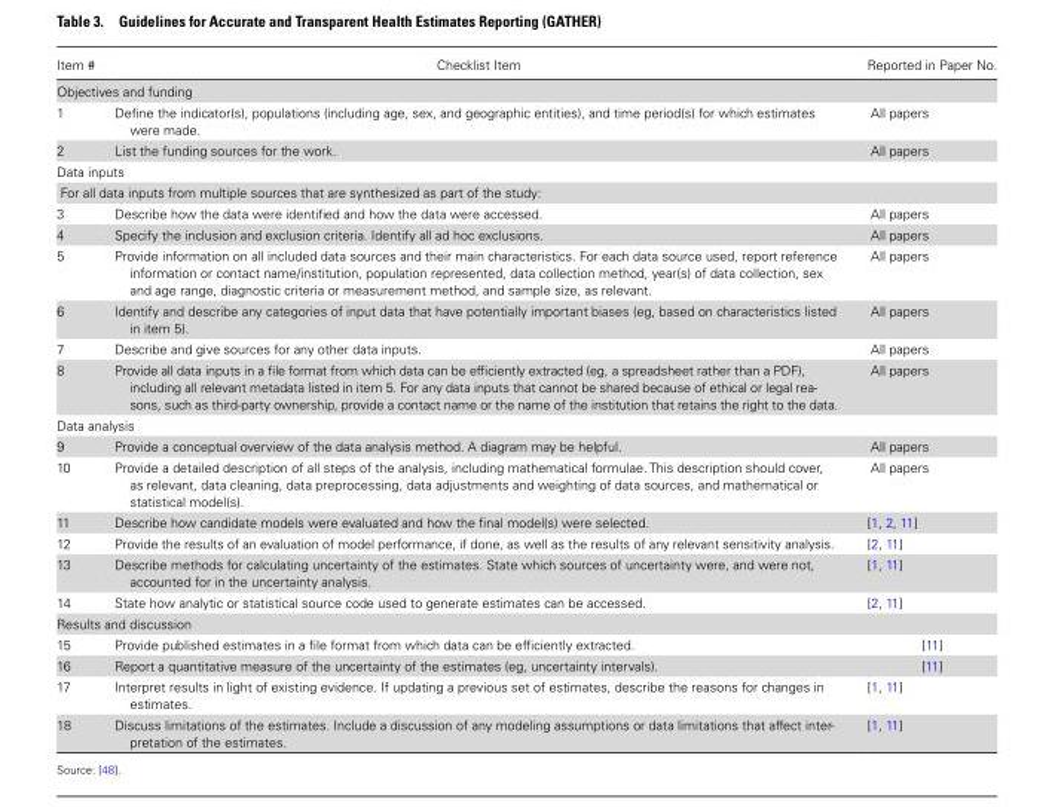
<table><thead><tr><td>Item #</td><td>Checklist Item</td><td>Reported in Paper No.</td></tr></thead><tbody><tr><td colspan="3">Objectives and funding</td></tr><tr><td>1</td><td>Define the indicator(s), populations (including age, sex, and geographic entities), and time period(s) for which estimates were made.</td><td>All papers</td></tr><tr><td>2</td><td>List the funding sources for the work.</td><td>All papers</td></tr><tr><td colspan="3">Data inputs</td></tr><tr><td colspan="3">For all data inputs from multiple sources that are synthesized as part of the study:</td></tr><tr><td>3</td><td>Describe how the data were identified and how the data were accessed.</td><td>All papers</td></tr><tr><td>4</td><td>Specify the inclusion and exclusion criteria. Identify all ad hoc exclusions.</td><td>All papers</td></tr><tr><td>5</td><td>Provide information on all included data sources and their main characteristics. For each data source used, report reference information or contact name/institution, population represented, data collection method, year(s) of data collection, sex and age range, diagnostic criteria or measurement method, and sample size, as relevant.</td><td>All papers</td></tr><tr><td>6</td><td>Identify and describe any categories of input data that have potentially important biases (eg, based on characteristics listed in item 5).</td><td>All papers</td></tr><tr><td>7</td><td>Describe and give sources for any other data inputs.</td><td>All papers</td></tr><tr><td>8</td><td>Provide all data inputs in a file format from which data can be efficiently extracted (eg, a spreadsheet rather than a PDF), including all relevant metadata listed in item 5. For any data inputs that cannot be shared because of ethical or legal rea- sons, such as third-party ownership, provide a contact name or the name of the institution that retains the right to the data.</td><td>All papers</td></tr><tr><td colspan="3">Data analysis</td></tr><tr><td>9</td><td>Provide a conceptual overview of the data analysis method. A diagram may be helpful.</td><td>All papers</td></tr><tr><td>10</td><td>Provide a detailed description of all steps of the analysis, including mathematical formulae. This description should cover, as relevant, data cleaning, data preprocessing, data adjustments and weighting of data sources, and mathematical or statistical model(s).</td><td>All papers</td></tr><tr><td>11</td><td>Describe how candidate models were evaluated and how the final model(s) were selected.</td><td>[1, 2, 11]</td></tr><tr><td>12</td><td>Provide the results of an evaluation of model performance, if done, as well as the results of any relevant sensitivity analysis.</td><td>[2, 11]</td></tr><tr><td>13</td><td>Describe methods for calculating uncertainty of the estimates. State which sources of uncertainty were, and were not, accounted for in the uncertainty analysis.</td><td>[1, 11]</td></tr><tr><td>14</td><td>State how analytic or statistical source code used to generate estimates can be accessed.</td><td>[2, 11]</td></tr><tr><td colspan="3">Results and discussion</td></tr><tr><td>15</td><td>Provide published estimates in a file format from which data can be efficiently extracted.</td><td>[11]</td></tr><tr><td>16</td><td>Report a quantitative measure of the uncertainty of the estimates (eg, uncertainty intervals).</td><td>[11]</td></tr><tr><td>17</td><td>Interpret results in light of existing evidence. If updating a previous set of estimates, describe the reasons for changes in estimates.</td><td>[1, 11]</td></tr><tr><td>18</td><td>Discuss limitations of the estimates. Include a discussion of any modeling assumptions or data limitations that affect inter- pretation of the estimates.</td><td>[1, 11]</td></tr></tbody></table>